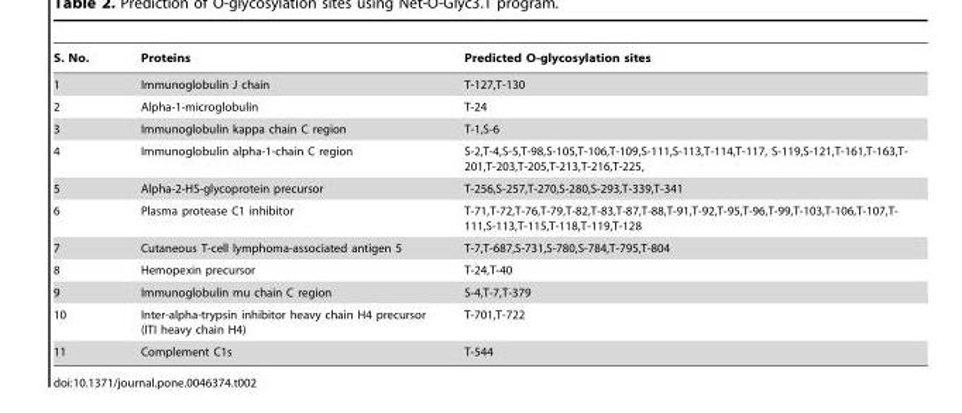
<table><thead><tr><td>S. No.</td><td>Proteins</td><td>Predicted O-glycosylation sites</td></tr></thead><tbody><tr><td>1</td><td>Immunoglobulin J chain</td><td>T-127,T-130</td></tr><tr><td>2</td><td>Alpha-1-microglobulin</td><td>T-24</td></tr><tr><td>3</td><td>Immunoglobulin kappa chain C region</td><td>T-1,S-6</td></tr><tr><td>4</td><td>Immunoglobulin alpha-1-chain C region</td><td>S-2,T-4,S-5,T-98,S-105,T-106,T-109,S-111,S-113,T-114,T-117, S-119,S-121,T-161,T-163,T- 201,T-203,T-205,T-213,T-216,T-225,</td></tr><tr><td>5</td><td>Alpha-2-HS-glycoprotein precursor</td><td>T-256,S-257,T-270,S-280,S-293,T-339,T-341</td></tr><tr><td>6</td><td>Plasma protease C1 inhibitor</td><td>T-71,T-72,T-76,T-79,T-82,T-83,T-87,T-88,T-91,T-92,T-95,T-96,T-99,T-103,T-106,T-107,T- 111,S-113,T-115,T-118,T-119,T-128</td></tr><tr><td>7</td><td>Cutaneous T-cell lymphoma-associated antigen 5</td><td>T-7,T-687,S-731,S-780,S-784,T-795,T-804</td></tr><tr><td>8</td><td>Hemopexin precursor</td><td>T-24,T-40</td></tr><tr><td>9</td><td>Immunoglobulin mu chain C region</td><td>S-4,T-7,T-379</td></tr><tr><td>10</td><td>Inter-alpha-trypsin inhibitor heavy chain H4 precursor (ITI heavy chain H4)</td><td>T-701,T-722</td></tr><tr><td>11</td><td>Complement C1s</td><td>T-544</td></tr></tbody></table>